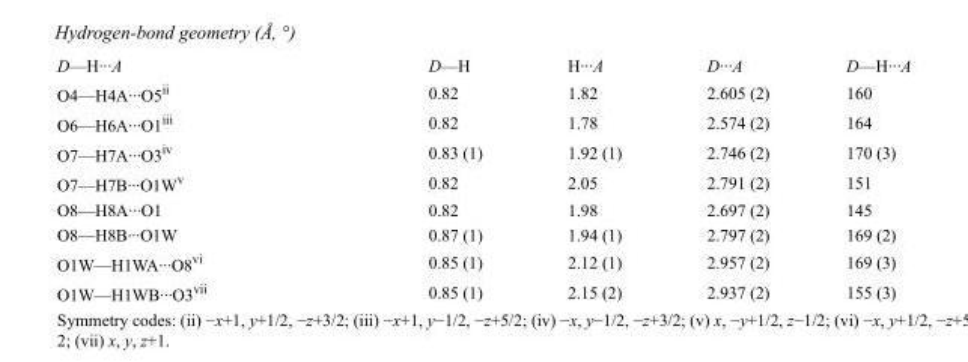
<table><tbody><tr><td>D—H···A</td><td>D—H</td><td>H···A</td><td>D···A</td><td>D—H···A</td></tr><tr><td>O4—H4A···O5<sup>ii</sup></td><td>0.82</td><td>1.82</td><td>2.605 (2)</td><td>160</td></tr><tr><td>O6—H6A···O1<sup>iii</sup></td><td>0.82</td><td>1.78</td><td>2.574 (2)</td><td>164</td></tr><tr><td>O7—H7A···O3<sup>iv</sup></td><td>0.83 (1)</td><td>1.92 (1)</td><td>2.746 (2)</td><td>170 (3)</td></tr><tr><td>O7—H7B···O1W<sup>v</sup></td><td>0.82</td><td>2.05</td><td>2.791 (2)</td><td>151</td></tr><tr><td>O8—H8A···O1</td><td>0.82</td><td>1.98</td><td>2.697 (2)</td><td>145</td></tr><tr><td>O8—H8B···O1W</td><td>0.87 (1)</td><td>1.94 (1)</td><td>2.797 (2)</td><td>169 (2)</td></tr><tr><td>O1W—H1WA···O8<sup>vi</sup></td><td>0.85 (1)</td><td>2.12 (1)</td><td>2.957 (2)</td><td>169 (3)</td></tr><tr><td>O1W—H1WB···O3<sup>vii</sup></td><td>0.85 (1)</td><td>2.15 (2)</td><td>2.937 (2)</td><td>155 (3)</td></tr></tbody></table>